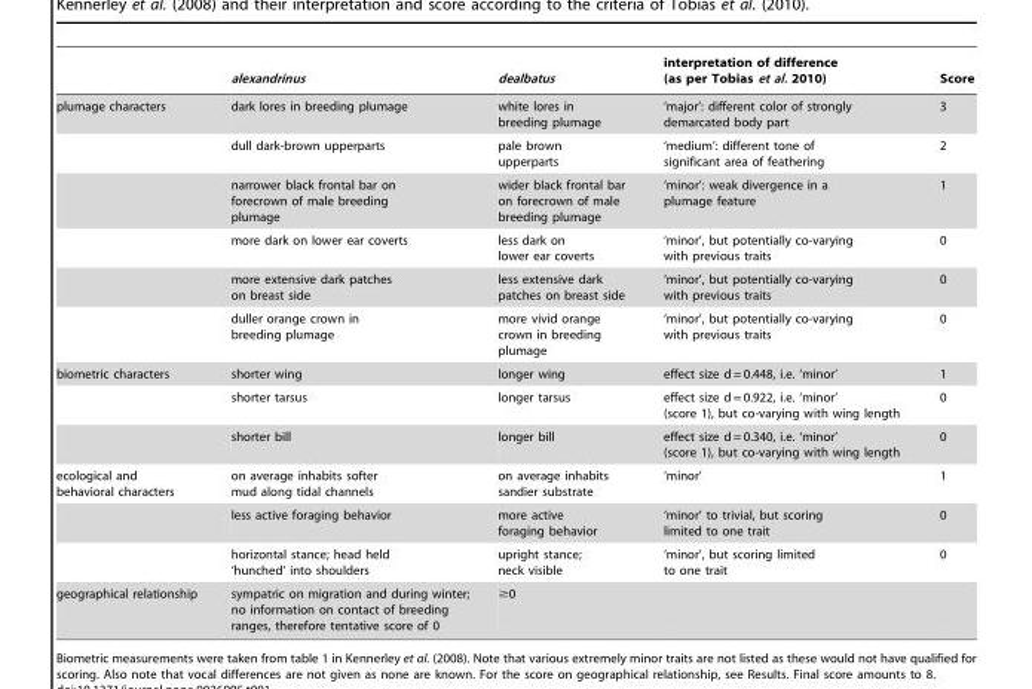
<table><thead><tr><td></td><td>alexandrinus</td><td>dealbatus</td><td>interpretation of difference (as per Tobias et al. 2010)</td><td>Score</td></tr></thead><tbody><tr><td rowspan="6">plumage characters</td><td>dark lores in breeding plumage</td><td>white lores in breeding plumage</td><td>‘major’: different color of strongly demarcated body part</td><td>3</td></tr><tr><td>dull dark-brown upperparts</td><td>pale brown upperparts</td><td>‘medium’: different tone of significant area of feathering</td><td>2</td></tr><tr><td>narrower black frontal bar on forecrown of male breeding plumage</td><td>wider black frontal bar on forecrown of male breeding plumage</td><td>‘minor’: weak divergence in a plumage feature</td><td>1</td></tr><tr><td>more dark on lower ear coverts</td><td>less dark on lower ear coverts</td><td>‘minor’, but potentially co-varying with previous traits</td><td>0</td></tr><tr><td>more extensive dark patches on breast side</td><td>less extensive dark patches on breast side</td><td>‘minor’, but potentially co-varying with previous traits</td><td>0</td></tr><tr><td>duller orange crown in breeding plumage</td><td>more vivid orange crown in breeding plumage</td><td>‘minor’, but potentially co-varying with previous traits</td><td>0</td></tr><tr><td rowspan="3">biometric characters</td><td>shorter wing</td><td>longer wing</td><td>effect size d = 0.448, i.e. ‘minor’</td><td>1</td></tr><tr><td>shorter tarsus</td><td>longer tarsus</td><td>effect size d = 0.922, i.e. ‘minor’ (score 1), but co-varying with wing length</td><td>0</td></tr><tr><td>shorter bill</td><td>longer bill</td><td>effect size d = 0.340, i.e. ‘minor’ (score 1), but co-varying with wing length</td><td>0</td></tr><tr><td rowspan="3">ecological and behavioral characters</td><td>on average inhabits softer mud along tidal channels</td><td>on average inhabits sandier substrate</td><td>‘minor’</td><td>1</td></tr><tr><td>less active foraging behavior</td><td>more active foraging behavior</td><td>‘minor’ to trivial, but scoring limited to one trait</td><td>0</td></tr><tr><td>horizontal stance; head held ‘hunched’ into shoulders</td><td>upright stance; neck visible</td><td>‘minor’, but scoring limited to one trait</td><td>0</td></tr><tr><td>geographical relationship</td><td>sympatric on migration and during winter; no information on contact of breeding ranges, therefore tentative score of 0</td><td>≥0</td><td></td><td></td></tr></tbody></table>